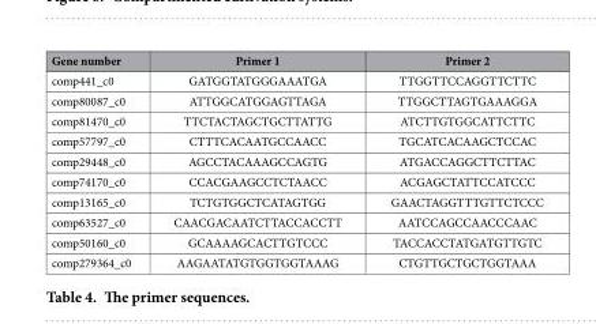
<table><thead><tr><td>Gene number</td><td>Primer 1</td><td>Primer 2</td></tr></thead><tbody><tr><td>comp441_c0</td><td>GATGGTATGGGAAATGA</td><td>TTGGTTCCAGGTTCTTC</td></tr><tr><td>comp80087_c0</td><td>ATTGGCATGGAGTTAGA</td><td>TTGGCTTAGTGAAAGGA</td></tr><tr><td>comp81470_c0</td><td>TTCTACTAGCTGCTTATTG</td><td>ATCTTGTGGCATTCTTC</td></tr><tr><td>comp57797_c0</td><td>CTTTCACAATGCCAACC</td><td>TGCATCACAAGCTCCAC</td></tr><tr><td>comp29448_c0</td><td>AGCCTACAAAGCCAGTG</td><td>ATGACCAGGCTTCTTAC</td></tr><tr><td>comp74170_c0</td><td>CCACGAAGCCTCTAACC</td><td>ACGAGCTATTCCATCCC</td></tr><tr><td>comp13165_c0</td><td>TCTGTGGCTCATAGTGG</td><td>GAACTAGGTTTGTTCTCCC</td></tr><tr><td>comp63527_c0</td><td>CAACGACAATCTTACCACCTT</td><td>AATCCAGCCAACCCAAC</td></tr><tr><td>comp50160_c0</td><td>GCAAAAGCACTTGTCCC</td><td>TACCACCTATGATGTTGTC</td></tr><tr><td>comp279364_c0</td><td>AAGAATATGTGGTGGTAAAG</td><td>CTGTTGCTGCTGGTAAA</td></tr></tbody></table>